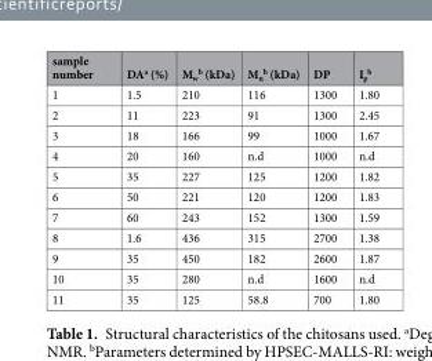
<table><thead><tr><td>sample number</td><td>DA<sup>a</sup> (%)</td><td>M<sub>w</sub> <sup>b</sup> (kDa)</td><td>M<sub>n</sub> <sup>b</sup> (kDa)</td><td>DP</td><td>I<sub>p</sub> <sup>b</sup></td></tr></thead><tbody><tr><td>1</td><td>1.5</td><td>210</td><td>116</td><td>1300</td><td>1.80</td></tr><tr><td>2</td><td>11</td><td>223</td><td>91</td><td>1300</td><td>2.45</td></tr><tr><td>3</td><td>18</td><td>166</td><td>99</td><td>1000</td><td>1.67</td></tr><tr><td>4</td><td>20</td><td>160</td><td>n.d</td><td>1000</td><td>n.d</td></tr><tr><td>5</td><td>35</td><td>227</td><td>125</td><td>1200</td><td>1.82</td></tr><tr><td>6</td><td>50</td><td>221</td><td>120</td><td>1200</td><td>1.83</td></tr><tr><td>7</td><td>60</td><td>243</td><td>152</td><td>1300</td><td>1.59</td></tr><tr><td>8</td><td>1.6</td><td>436</td><td>315</td><td>2700</td><td>1.38</td></tr><tr><td>9</td><td>35</td><td>450</td><td>182</td><td>2600</td><td>1.87</td></tr><tr><td>10</td><td>35</td><td>280</td><td>n.d</td><td>1600</td><td>n.d</td></tr><tr><td>11</td><td>35</td><td>125</td><td>58.8</td><td>700</td><td>1.80</td></tr></tbody></table>